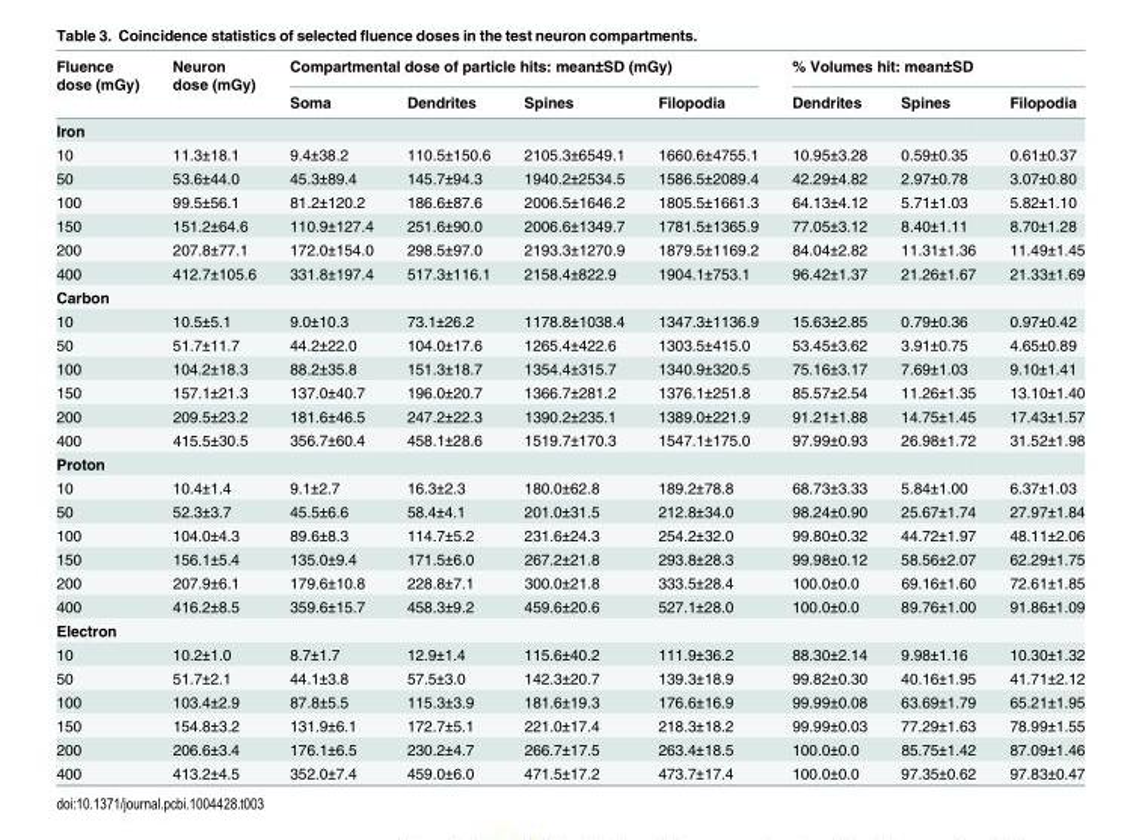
<table><thead><tr><td rowspan="2">Fluence dose (mGy)</td><td rowspan="2">Neuron dose (mGy)</td><td colspan="4">Compartmental dose of particle hits: mean±SD (mGy)</td><td colspan="3">% Volumes hit: mean±SD</td></tr><tr><td>Soma</td><td>Dendrites</td><td>Spines</td><td>Filopodia</td><td>Dendrites</td><td>Spines</td><td>Filopodia</td></tr></thead><tbody><tr><td colspan="9">Iron</td></tr><tr><td>10</td><td>11.3±18.1</td><td>9.4±38.2</td><td>110.5±150.6</td><td>2105.3±6549.1</td><td>1660.6±4755.1</td><td>10.95±3.28</td><td>0.59±0.35</td><td>0.61±0.37</td></tr><tr><td>50</td><td>53.6±44.0</td><td>45.3±89.4</td><td>145.7±94.3</td><td>1940.2±2534.5</td><td>1586.5±2089.4</td><td>42.29±4.82</td><td>2.97±0.78</td><td>3.07±0.80</td></tr><tr><td>100</td><td>99.5±56.1</td><td>81.2±120.2</td><td>186.6±87.6</td><td>2006.5±1646.2</td><td>1805.5±1661.3</td><td>64.13±4.12</td><td>5.71±1.03</td><td>5.82±1.10</td></tr><tr><td>150</td><td>151.2±64.6</td><td>110.9±127.4</td><td>251.6±90.0</td><td>2006.6±1349.7</td><td>1781.5±1365.9</td><td>77.05±3.12</td><td>8.40±1.11</td><td>8.70±1.28</td></tr><tr><td>200</td><td>207.8±77.1</td><td>172.0±154.0</td><td>298.5±97.0</td><td>2193.3±1270.9</td><td>1879.5±1169.2</td><td>84.04±2.82</td><td>11.31±1.36</td><td>11.49±1.45</td></tr><tr><td>400</td><td>412.7±105.6</td><td>331.8±197.4</td><td>517.3±116.1</td><td>2158.4±822.9</td><td>1904.1±753.1</td><td>96.42±1.37</td><td>21.26±1.67</td><td>21.33±1.69</td></tr><tr><td colspan="9">Carbon</td></tr><tr><td>10</td><td>10.5±5.1</td><td>9.0±10.3</td><td>73.1±26.2</td><td>1178.8±1038.4</td><td>1347.3±1136.9</td><td>15.63±2.85</td><td>0.79±0.36</td><td>0.97±0.42</td></tr><tr><td>50</td><td>51.7±11.7</td><td>44.2±22.0</td><td>104.0±17.6</td><td>1265.4±422.6</td><td>1303.5±415.0</td><td>53.45±3.62</td><td>3.91±0.75</td><td>4.65±0.89</td></tr><tr><td>100</td><td>104.2±18.3</td><td>88.2±35.8</td><td>151.3±18.7</td><td>1354.4±315.7</td><td>1340.9±320.5</td><td>75.16±3.17</td><td>7.69±1.03</td><td>9.10±1.41</td></tr><tr><td>150</td><td>157.1±21.3</td><td>137.0±40.7</td><td>196.0±20.7</td><td>1366.7±281.2</td><td>1376.1±251.8</td><td>85.57±2.54</td><td>11.26±1.35</td><td>13.10±1.40</td></tr><tr><td>200</td><td>209.5±23.2</td><td>181.6±46.5</td><td>247.2±22.3</td><td>1390.2±235.1</td><td>1389.0±221.9</td><td>91.21±1.88</td><td>14.75±1.45</td><td>17.43±1.57</td></tr><tr><td>400</td><td>415.5±30.5</td><td>356.7±60.4</td><td>458.1±28.6</td><td>1519.7±170.3</td><td>1547.1±175.0</td><td>97.99±0.93</td><td>26.98±1.72</td><td>31.52±1.98</td></tr><tr><td colspan="9">Proton</td></tr><tr><td>10</td><td>10.4±1.4</td><td>9.1±2.7</td><td>16.3±2.3</td><td>180.0±62.8</td><td>189.2±78.8</td><td>68.73±3.33</td><td>5.84±1.00</td><td>6.37±1.03</td></tr><tr><td>50</td><td>52.3±3.7</td><td>45.5±6.6</td><td>58.4±4.1</td><td>201.0±31.5</td><td>212.8±34.0</td><td>98.24±0.90</td><td>25.67±1.74</td><td>27.97±1.84</td></tr><tr><td>100</td><td>104.0±4.3</td><td>89.6±8.3</td><td>114.7±5.2</td><td>231.6±24.3</td><td>254.2±32.0</td><td>99.80±0.32</td><td>44.72±1.97</td><td>48.11±2.06</td></tr><tr><td>150</td><td>156.1±5.4</td><td>135.0±9.4</td><td>171.5±6.0</td><td>267.2±21.8</td><td>293.8±28.3</td><td>99.98±0.12</td><td>58.56±2.07</td><td>62.29±1.75</td></tr><tr><td>200</td><td>207.9±6.1</td><td>179.6±10.8</td><td>228.8±7.1</td><td>300.0±21.8</td><td>333.5±28.4</td><td>100.0±0.0</td><td>69.16±1.60</td><td>72.61±1.85</td></tr><tr><td>400</td><td>416.2±8.5</td><td>359.6±15.7</td><td>458.3±9.2</td><td>459.6±20.6</td><td>527.1±28.0</td><td>100.0±0.0</td><td>89.76±1.00</td><td>91.86±1.09</td></tr><tr><td colspan="9">Electron</td></tr><tr><td>10</td><td>10.2±1.0</td><td>8.7±1.7</td><td>12.9±1.4</td><td>115.6±40.2</td><td>111.9±36.2</td><td>88.30±2.14</td><td>9.98±1.16</td><td>10.30±1.32</td></tr><tr><td>50</td><td>51.7±2.1</td><td>44.1±3.8</td><td>57.5±3.0</td><td>142.3±20.7</td><td>139.3±18.9</td><td>99.82±0.30</td><td>40.16±1.95</td><td>41.71±2.12</td></tr><tr><td>100</td><td>103.4±2.9</td><td>87.8±5.5</td><td>115.3±3.9</td><td>181.6±19.3</td><td>176.6±16.9</td><td>99.99±0.08</td><td>63.69±1.79</td><td>65.21±1.95</td></tr><tr><td>150</td><td>154.8±3.2</td><td>131.9±6.1</td><td>172.7±5.1</td><td>221.0±17.4</td><td>218.3±18.2</td><td>99.99±0.03</td><td>77.29±1.63</td><td>78.99±1.55</td></tr><tr><td>200</td><td>206.6±3.4</td><td>176.1±6.5</td><td>230.2±4.7</td><td>266.7±17.5</td><td>263.4±18.5</td><td>100.0±0.0</td><td>85.75±1.42</td><td>87.09±1.46</td></tr><tr><td>400</td><td>413.2±4.5</td><td>352.0±7.4</td><td>459.0±6.0</td><td>471.5±17.2</td><td>473.7±17.4</td><td>100.0±0.0</td><td>97.35±0.62</td><td>97.83±0.47</td></tr></tbody></table>